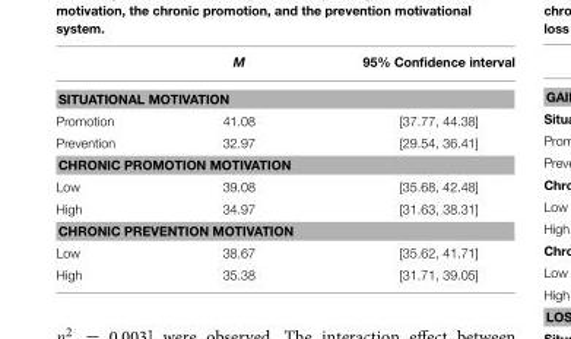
<table><thead><tr><td></td><td>M</td><td>95% Confidence interval</td></tr></thead><tbody><tr><td colspan="3">SITUATIONAL MOTIVATION</td></tr><tr><td>Promotion</td><td>41.08</td><td>[37.77, 44.38]</td></tr><tr><td>Prevention</td><td>32.97</td><td>[29.54, 36.41]</td></tr><tr><td colspan="3">CHRONIC PROMOTION MOTIVATION</td></tr><tr><td>Low</td><td>39.08</td><td>[35.68, 42.48]</td></tr><tr><td>High</td><td>34.97</td><td>[31.63, 38.31]</td></tr><tr><td colspan="3">CHRONIC PREVENTION MOTIVATION</td></tr><tr><td>Low</td><td>38.67</td><td>[35.62, 41.71]</td></tr><tr><td>High</td><td>35.38</td><td>[31.71, 39.05]</td></tr></tbody></table>